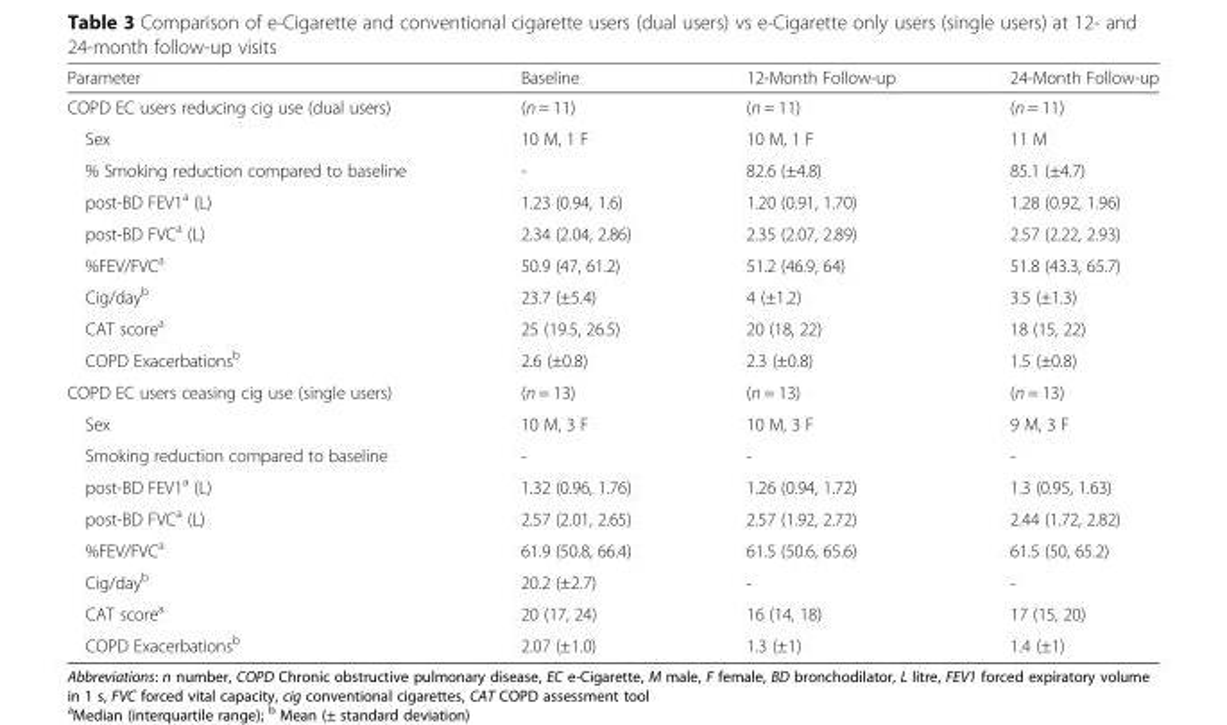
<table><thead><tr><td>Parameter</td><td>Baseline</td><td>12-Month Follow-up</td><td>24-Month Follow-up</td></tr></thead><tbody><tr><td>COPD EC users reducing cig use (dual users)</td><td>(n = 11)</td><td>(n = 11)</td><td>(n = 11)</td></tr><tr><td>Sex</td><td>10 M, 1 F</td><td>10 M, 1 F</td><td>11 M</td></tr><tr><td>% Smoking reduction compared to baseline</td><td>-</td><td>82.6 (±4.8)</td><td>85.1 (±4.7)</td></tr><tr><td>post-BD FEV1<sup>a</sup> (L)</td><td>1.23 (0.94, 1.6)</td><td>1.20 (0.91, 1.70)</td><td>1.28 (0.92, 1.96)</td></tr><tr><td>post-BD FVC<sup>a</sup> (L)</td><td>2.34 (2.04, 2.86)</td><td>2.35 (2.07, 2.89)</td><td>2.57 (2.22, 2.93)</td></tr><tr><td>%FEV/FVC<sup>a</sup></td><td>50.9 (47, 61.2)</td><td>51.2 (46.9, 64)</td><td>51.8 (43.3, 65.7)</td></tr><tr><td>Cig/day<sup>b</sup></td><td>23.7 (±5.4)</td><td>4 (±1.2)</td><td>3.5 (±1.3)</td></tr><tr><td>CAT score<sup>a</sup></td><td>25 (19.5, 26.5)</td><td>20 (18, 22)</td><td>18 (15, 22)</td></tr><tr><td>COPD Exacerbations<sup>b</sup></td><td>2.6 (±0.8)</td><td>2.3 (±0.8)</td><td>1.5 (±0.8)</td></tr><tr><td>COPD EC users ceasing cig use (single users)</td><td>(n = 13)</td><td>(n = 13)</td><td>(n = 13)</td></tr><tr><td>Sex</td><td>10 M, 3 F</td><td>10 M, 3 F</td><td>9 M, 3 F</td></tr><tr><td>Smoking reduction compared to baseline</td><td>-</td><td>-</td><td>-</td></tr><tr><td>post-BD FEV1<sup>a</sup> (L)</td><td>1.32 (0.96, 1.76)</td><td>1.26 (0.94, 1.72)</td><td>1.3 (0.95, 1.63)</td></tr><tr><td>post-BD FVC<sup>a</sup> (L)</td><td>2.57 (2.01, 2.65)</td><td>2.57 (1.92, 2.72)</td><td>2.44 (1.72, 2.82)</td></tr><tr><td>%FEV/FVC<sup>a</sup></td><td>61.9 (50.8, 66.4)</td><td>61.5 (50.6, 65.6)</td><td>61.5 (50, 65.2)</td></tr><tr><td>Cig/day<sup>b</sup></td><td>20.2 (±2.7)</td><td>-</td><td>-</td></tr><tr><td>CAT score<sup>a</sup></td><td>20 (17, 24)</td><td>16 (14, 18)</td><td>17 (15, 20)</td></tr><tr><td>COPD Exacerbations<sup>b</sup></td><td>2.07 (±1.0)</td><td>1.3 (±1)</td><td>1.4 (±1)</td></tr></tbody></table>